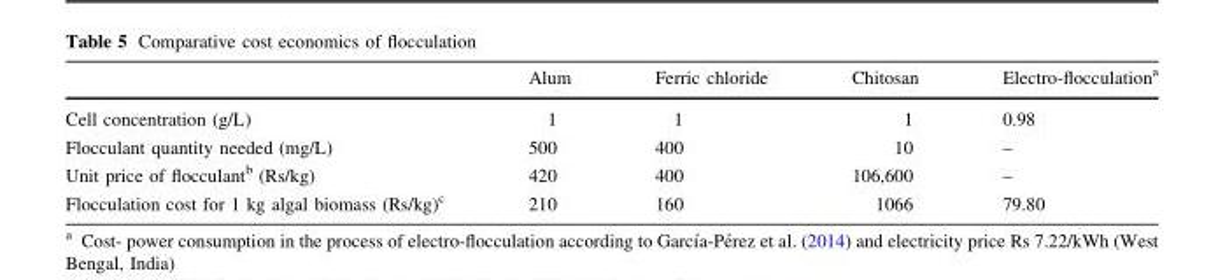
<table><thead><tr><td></td><td>Alum</td><td>Ferric chloride</td><td>Chitosan</td><td>Electro-flocculation<sup>a</sup></td></tr></thead><tbody><tr><td>Cell concentration (g/L)</td><td>1</td><td>1</td><td>1</td><td>0.98</td></tr><tr><td>Flocculant quantity needed (mg/L)</td><td>500</td><td>400</td><td>10</td><td>–</td></tr><tr><td>Unit price of flocculant<sup>b</sup> (Rs/kg)</td><td>420</td><td>400</td><td>106,600</td><td>–</td></tr><tr><td>Flocculation cost for 1 kg algal biomass (Rs/kg)<sup>c</sup></td><td>210</td><td>160</td><td>1066</td><td>79.80</td></tr></tbody></table>